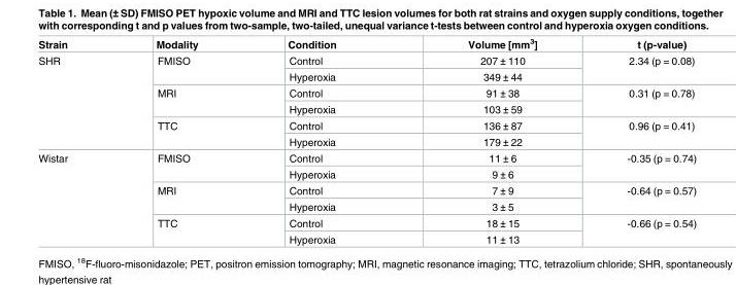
<table><thead><tr><td>Strain</td><td>Modality</td><td>Condition</td><td>Volume [mm<sup>3</sup>]</td><td>t (p-value)</td></tr></thead><tbody><tr><td rowspan="6">SHR</td><td rowspan="2">FMISO</td><td>Control</td><td>207 ± 110</td><td rowspan="2">2.34 (p = 0.08)</td></tr><tr><td>Hyperoxia</td><td>349 ± 44</td></tr><tr><td rowspan="2">MRI</td><td>Control</td><td>91 ± 38</td><td rowspan="2">0.31 (p = 0.78)</td></tr><tr><td>Hyperoxia</td><td>103 ± 59</td></tr><tr><td rowspan="2">TTC</td><td>Control</td><td>136 ± 87</td><td rowspan="2">0.96 (p = 0.41)</td></tr><tr><td>Hyperoxia</td><td>179 ± 22</td></tr><tr><td rowspan="6">Wistar</td><td rowspan="2">FMISO</td><td>Control</td><td>11 ± 6</td><td rowspan="2">-0.35 (p = 0.74)</td></tr><tr><td>Hyperoxia</td><td>9 ± 6</td></tr><tr><td rowspan="2">MRI</td><td>Control</td><td>7 ± 9</td><td rowspan="2">-0.64 (p = 0.57)</td></tr><tr><td>Hyperoxia</td><td>3 ± 5</td></tr><tr><td rowspan="2">TTC</td><td>Control</td><td>18 ± 15</td><td rowspan="2">-0.66 (p = 0.54)</td></tr><tr><td>Hyperoxia</td><td>11 ± 13</td></tr></tbody></table>